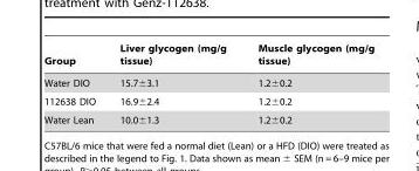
<table><thead><tr><td>Group</td><td>Liver glycogen (mg/g tissue)</td><td>Muscle glycogen (mg/g tissue)</td></tr></thead><tbody><tr><td>Water DIO</td><td>15.7±3.1</td><td>1.2±0.2</td></tr><tr><td>112638 DIO</td><td>16.9±2.4</td><td>1.2±0.2</td></tr><tr><td>Water Lean</td><td>10.0±1.3</td><td>1.2±0.2</td></tr></tbody></table>